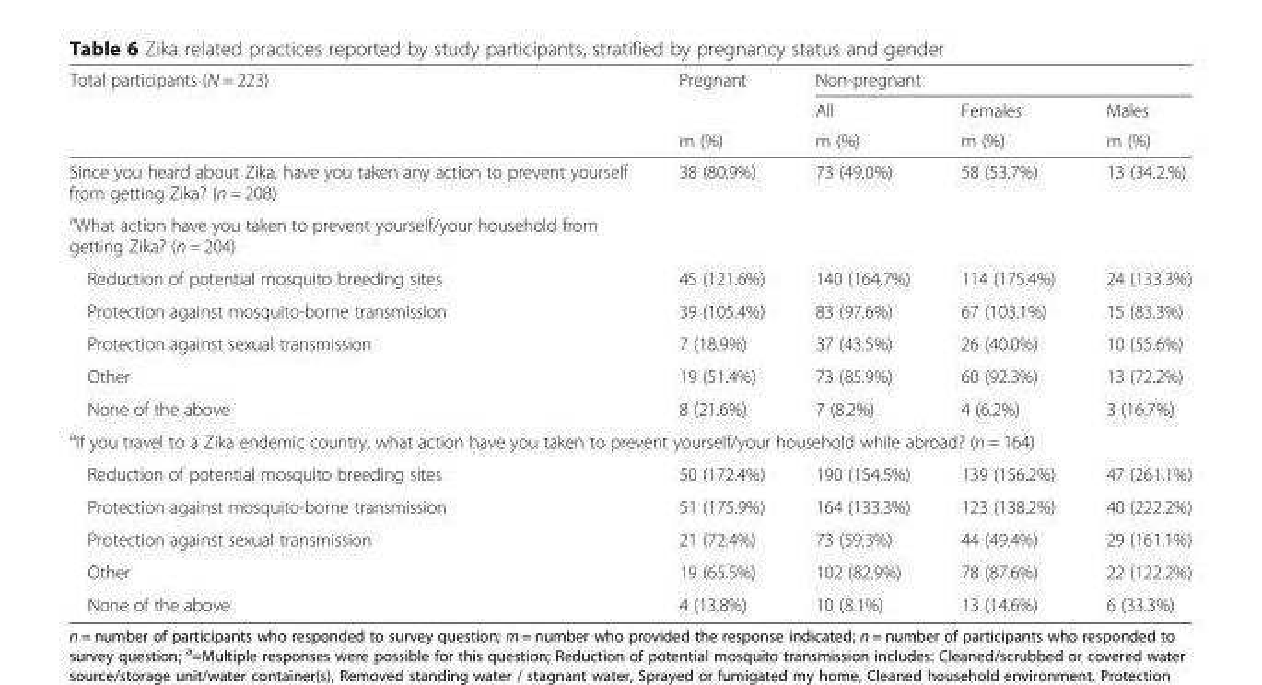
<table><thead><tr><td rowspan="3">Total participants (N = 223)</td><td rowspan="3">Pregnant m (%)</td><td colspan="3">Non-pregnant</td></tr><tr><td rowspan="2">All m (%)</td><td rowspan="2">Females m (%)</td><td rowspan="2">Males m (%)</td></tr><tr></tr></thead><tbody><tr><td>Since you heard about Zika, have you taken any action to prevent yourself from getting Zika? (n = 208)</td><td>38 (80.9%)</td><td>73 (49.0%)</td><td>58 (53.7%)</td><td>13 (34.2.%)</td></tr><tr><td colspan="5"><sup>a</sup>What action have you taken to prevent yourself/your household from getting Zika? (n = 204)</td></tr><tr><td>Reduction of potential mosquito breeding sites</td><td>45 (121.6%)</td><td>140 (164.7%)</td><td>114 (175.4%)</td><td>24 (133.3%)</td></tr><tr><td>Protection against mosquito-borne transmission</td><td>39 (105.4%)</td><td>83 (97.6%)</td><td>67 (103.1%)</td><td>15 (83.3%)</td></tr><tr><td>Protection against sexual transmission</td><td>7 (18.9%)</td><td>37 (43.5%)</td><td>26 (40.0%)</td><td>10 (55.6%)</td></tr><tr><td>Other</td><td>19 (51.4%)</td><td>73 (85.9%)</td><td>60 (92.3%)</td><td>13 (72.2%)</td></tr><tr><td>None of the above</td><td>8 (21.6%)</td><td>7 (8.2%)</td><td>4 (6.2%)</td><td>3 (16.7%)</td></tr><tr><td colspan="5"><sup>a</sup>If you travel to a Zika endemic country, what action have you taken to prevent yourself/your household while abroad? (n = 164)</td></tr><tr><td>Reduction of potential mosquito breeding sites</td><td>50 (172.4%)</td><td>190 (154.5%)</td><td>139 (156.2%)</td><td>47 (261.1%)</td></tr><tr><td>Protection against mosquito-borne transmission</td><td>51 (175.9%)</td><td>164 (133.3%)</td><td>123 (138.2%)</td><td>40 (222.2%)</td></tr><tr><td>Protection against sexual transmission</td><td>21 (72.4%)</td><td>73 (59.3%)</td><td>44 (49.4%)</td><td>29 (161.1%)</td></tr><tr><td>Other</td><td>19 (65.5%)</td><td>102 (82.9%)</td><td>78 (87.6%)</td><td>22 (122.2%)</td></tr><tr><td>None of the above</td><td>4 (13.8%)</td><td>10 (8.1%)</td><td>13 (14.6%)</td><td>6 (33.3%)</td></tr></tbody></table>